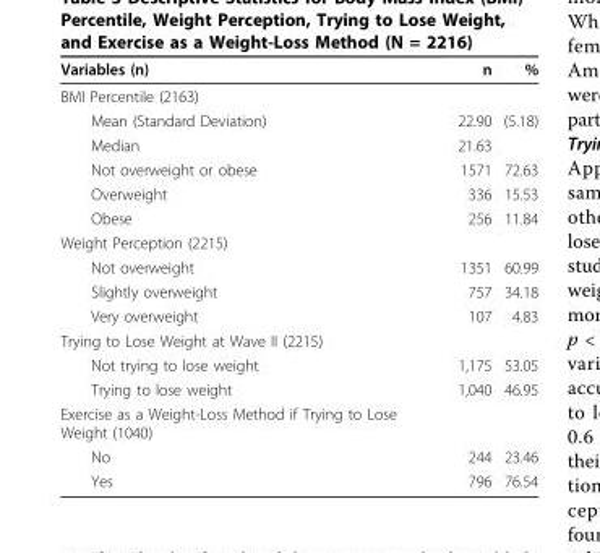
<table><thead><tr><td>Variables (n)</td><td>n</td><td>%</td></tr></thead><tbody><tr><td colspan="3">BMI Percentile (2163)</td></tr><tr><td>Mean (Standard Deviation)</td><td>22.90</td><td>(5.18)</td></tr><tr><td>Median</td><td>21.63</td><td></td></tr><tr><td>Not overweight or obese</td><td>1571</td><td>72.63</td></tr><tr><td>Overweight</td><td>336</td><td>15.53</td></tr><tr><td>Obese</td><td>256</td><td>11.84</td></tr><tr><td colspan="3">Weight Perception (2215)</td></tr><tr><td>Not overweight</td><td>1351</td><td>60.99</td></tr><tr><td>Slightly overweight</td><td>757</td><td>34.18</td></tr><tr><td>Very overweight</td><td>107</td><td>4.83</td></tr><tr><td colspan="3">Trying to Lose Weight at Wave II (2215)</td></tr><tr><td>Not trying to lose weight</td><td>1,175</td><td>53.05</td></tr><tr><td>Trying to lose weight</td><td>1,040</td><td>46.95</td></tr><tr><td colspan="3">Exercise as a Weight-Loss Method if Trying to Lose Weight (1040)</td></tr><tr><td>No</td><td>244</td><td>23.46</td></tr><tr><td>Yes</td><td>796</td><td>76.54</td></tr></tbody></table>